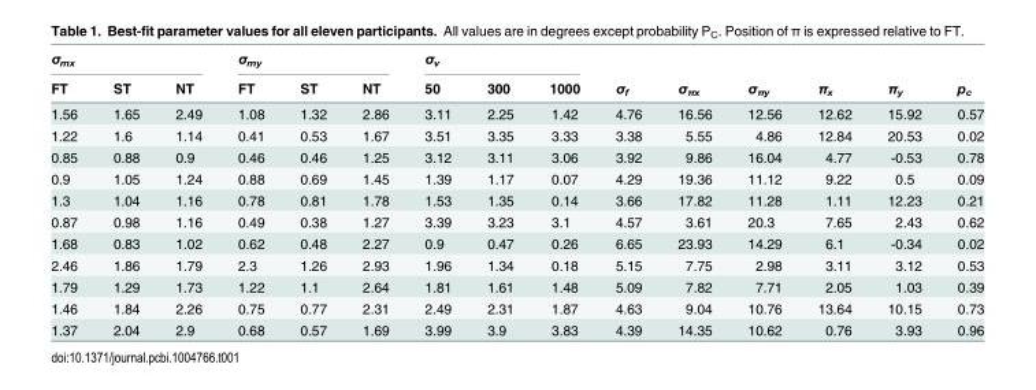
<table><thead><tr><td colspan="3">σ<sub>mx</sub></td><td colspan="3">σ<sub>my</sub></td><td colspan="3">σ<sub>v</sub></td><td rowspan="2">σ<sub>f</sub></td><td rowspan="2">σ<sub>πx</sub></td><td rowspan="2">σ<sub>πy</sub></td><td rowspan="2">π<sub>x</sub></td><td rowspan="2">π<sub>y</sub></td><td rowspan="2">p<sub>c</sub></td></tr><tr><td>FT</td><td>ST</td><td>NT</td><td>FT</td><td>ST</td><td>NT</td><td>50</td><td>300</td><td>1000</td></tr></thead><tbody><tr><td>1.56</td><td>1.65</td><td>2.49</td><td>1.08</td><td>1.32</td><td>2.86</td><td>3.11</td><td>2.25</td><td>1.42</td><td>4.76</td><td>16.56</td><td>12.56</td><td>12.62</td><td>15.92</td><td>0.57</td></tr><tr><td>1.22</td><td>1.6</td><td>1.14</td><td>0.41</td><td>0.53</td><td>1.67</td><td>3.51</td><td>3.35</td><td>3.33</td><td>3.38</td><td>5.55</td><td>4.86</td><td>12.84</td><td>20.53</td><td>0.02</td></tr><tr><td>0.85</td><td>0.88</td><td>0.9</td><td>0.46</td><td>0.46</td><td>1.25</td><td>3.12</td><td>3.11</td><td>3.06</td><td>3.92</td><td>9.86</td><td>16.04</td><td>4.77</td><td>-0.53</td><td>0.78</td></tr><tr><td>0.9</td><td>1.05</td><td>1.24</td><td>0.88</td><td>0.69</td><td>1.45</td><td>1.39</td><td>1.17</td><td>0.07</td><td>4.29</td><td>19.36</td><td>11.12</td><td>9.22</td><td>0.5</td><td>0.09</td></tr><tr><td>1.3</td><td>1.04</td><td>1.16</td><td>0.78</td><td>0.81</td><td>1.78</td><td>1.53</td><td>1.35</td><td>0.14</td><td>3.66</td><td>17.82</td><td>11.28</td><td>1.11</td><td>12.23</td><td>0.21</td></tr><tr><td>0.87</td><td>0.98</td><td>1.16</td><td>0.49</td><td>0.38</td><td>1.27</td><td>3.39</td><td>3.23</td><td>3.1</td><td>4.57</td><td>3.61</td><td>20.3</td><td>7.65</td><td>2.43</td><td>0.62</td></tr><tr><td>1.68</td><td>0.83</td><td>1.02</td><td>0.62</td><td>0.48</td><td>2.27</td><td>0.9</td><td>0.47</td><td>0.26</td><td>6.65</td><td>23.93</td><td>14.29</td><td>6.1</td><td>-0.34</td><td>0.02</td></tr><tr><td>2.46</td><td>1.86</td><td>1.79</td><td>2.3</td><td>1.26</td><td>2.93</td><td>1.96</td><td>1.34</td><td>0.18</td><td>5.15</td><td>7.75</td><td>2.98</td><td>3.11</td><td>3.12</td><td>0.53</td></tr><tr><td>1.79</td><td>1.29</td><td>1.73</td><td>1.22</td><td>1.1</td><td>2.64</td><td>1.81</td><td>1.61</td><td>1.48</td><td>5.09</td><td>7.82</td><td>7.71</td><td>2.05</td><td>1.03</td><td>0.39</td></tr><tr><td>1.46</td><td>1.84</td><td>2.26</td><td>0.75</td><td>0.77</td><td>2.31</td><td>2.49</td><td>2.31</td><td>1.87</td><td>4.63</td><td>9.04</td><td>10.76</td><td>13.64</td><td>10.15</td><td>0.73</td></tr><tr><td>1.37</td><td>2.04</td><td>2.9</td><td>0.68</td><td>0.57</td><td>1.69</td><td>3.99</td><td>3.9</td><td>3.83</td><td>4.39</td><td>14.35</td><td>10.62</td><td>0.76</td><td>3.93</td><td>0.96</td></tr></tbody></table>